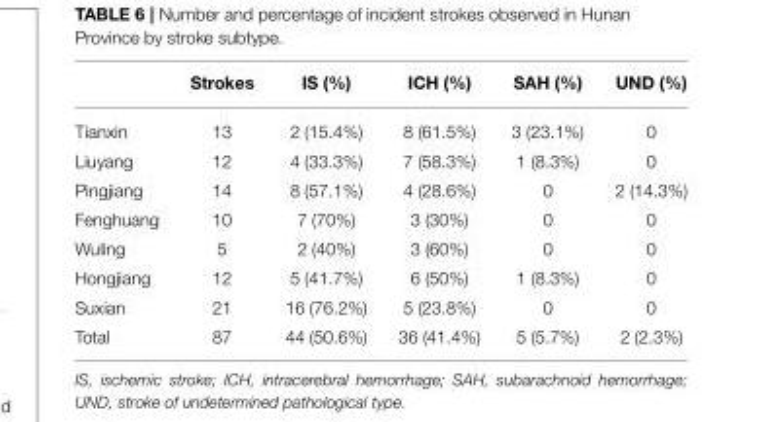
<table><thead><tr><td></td><td>Strokes</td><td>IS (%)</td><td>ICH (%)</td><td>SAH (%)</td><td>UND (%)</td></tr></thead><tbody><tr><td>Tianxin</td><td>13</td><td>2 (15.4%)</td><td>8 (61.5%)</td><td>3 (23.1%)</td><td>0</td></tr><tr><td>Liuyang</td><td>12</td><td>4 (33.3%)</td><td>7 (58.3%)</td><td>1 (8.3%)</td><td>0</td></tr><tr><td>Pingjiang</td><td>14</td><td>8 (57.1%)</td><td>4 (28.6%)</td><td>0</td><td>2 (14.3%)</td></tr><tr><td>Fenghuang</td><td>10</td><td>7 (70%)</td><td>3 (30%)</td><td>0</td><td>0</td></tr><tr><td>Wuling</td><td>5</td><td>2 (40%)</td><td>3 (60%)</td><td>0</td><td>0</td></tr><tr><td>Hongjiang</td><td>12</td><td>5 (41.7%)</td><td>6 (50%)</td><td>1 (8.3%)</td><td>0</td></tr><tr><td>Suxian</td><td>21</td><td>16 (76.2%)</td><td>5 (23.8%)</td><td>0</td><td>0</td></tr><tr><td>Total</td><td>87</td><td>44 (50.6%)</td><td>36 (41.4%)</td><td>5 (5.7%)</td><td>2 (2.3%)</td></tr></tbody></table>